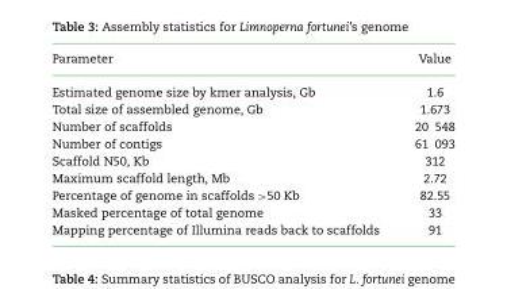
<table><thead><tr><td>Parameter</td><td>Value</td></tr></thead><tbody><tr><td>Estimated genome size by kmer analysis, Gb</td><td>1.6</td></tr><tr><td>Total size of assembled genome, Gb</td><td>1.673</td></tr><tr><td>Number of scaffolds</td><td>20 548</td></tr><tr><td>Number of contigs</td><td>61 093</td></tr><tr><td>Scaffold N50, Kb</td><td>312</td></tr><tr><td>Maximum scaffold length, Mb</td><td>2.72</td></tr><tr><td>Percentage of genome in scaffolds &gt;50 Kb</td><td>82.55</td></tr><tr><td>Masked percentage of total genome</td><td>33</td></tr><tr><td>Mapping percentage of Illumina reads back to scaffolds</td><td>91</td></tr></tbody></table>